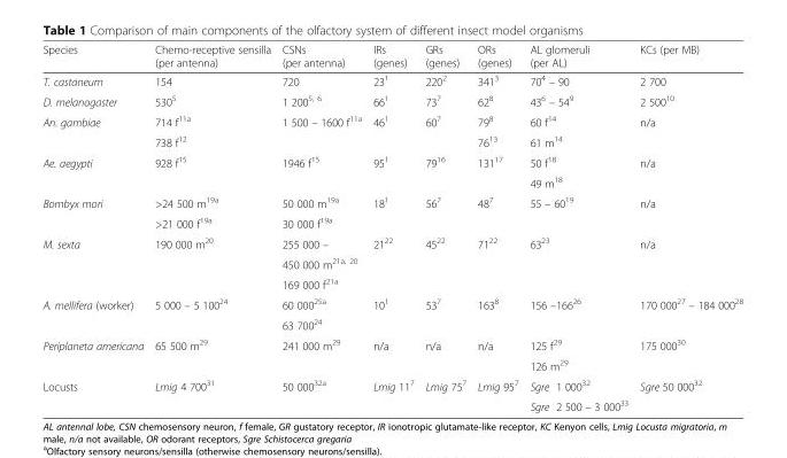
<table><thead><tr><td>Species</td><td>Chemo-receptive sensilla (per antenna)</td><td>CSNs (per antenna)</td><td>IRs (genes)</td><td>GRs (genes)</td><td>ORs (genes)</td><td>AL glomeruli (per AL)</td><td>KCs (per MB)</td></tr></thead><tbody><tr><td>T. castaneum</td><td>154</td><td>720</td><td>23<sup>1</sup></td><td>220<sup>2</sup></td><td>341<sup>3</sup></td><td>70<sup>4</sup> – 90</td><td>2 700</td></tr><tr><td>D. melanogaster</td><td>530<sup>5</sup></td><td>1 200<sup>5, 6</sup></td><td>66<sup>1</sup></td><td>73<sup>7</sup></td><td>62<sup>8</sup></td><td>43<sup>6</sup> – 54<sup>9</sup></td><td>2 500<sup>10</sup></td></tr><tr><td rowspan="2">An. gambiae</td><td>714 f<sup>11a</sup></td><td rowspan="2">1 500 – 1600 f<sup>11a</sup></td><td rowspan="2">46<sup>1</sup></td><td rowspan="2">60<sup>7</sup></td><td>79<sup>8</sup></td><td>60 f<sup>14</sup></td><td rowspan="2">n/a</td></tr><tr><td>738 f<sup>12</sup></td><td>76<sup>13</sup></td><td>61 m<sup>14</sup></td></tr><tr><td rowspan="2">Ae. aegypti</td><td rowspan="2">928 f<sup>15</sup></td><td rowspan="2">1946 f<sup>15</sup></td><td rowspan="2">95<sup>1</sup></td><td rowspan="2">79<sup>16</sup></td><td rowspan="2">131<sup>17</sup></td><td>50 f<sup>18</sup></td><td rowspan="2">n/a</td></tr><tr><td>49 m<sup>18</sup></td></tr><tr><td rowspan="2">Bombyx mori</td><td>&gt;24 500 m<sup>19a</sup></td><td>50 000 m<sup>19a</sup></td><td rowspan="2">18<sup>1</sup></td><td rowspan="2">56<sup>7</sup></td><td rowspan="2">48<sup>7</sup></td><td rowspan="2">55 – 60<sup>19</sup></td><td rowspan="2">n/a</td></tr><tr><td>&gt;21 000 f<sup>19a</sup></td><td>30 000 f<sup>19a</sup></td></tr><tr><td rowspan="3">M. sexta</td><td rowspan="3">190 000 m<sup>20</sup></td><td>255 000 –</td><td rowspan="3">21<sup>22</sup></td><td rowspan="3">45<sup>22</sup></td><td rowspan="3">71<sup>22</sup></td><td rowspan="3">63<sup>23</sup></td><td rowspan="3">n/a</td></tr><tr><td>450 000 m<sup>21a, 20</sup></td></tr><tr><td>169 000 f<sup>21a</sup></td></tr><tr><td rowspan="2">A. mellifera (worker)</td><td rowspan="2">5 000 – 5 100<sup>24</sup></td><td>60 000<sup>25a</sup></td><td rowspan="2">10<sup>1</sup></td><td rowspan="2">53<sup>7</sup></td><td rowspan="2">163<sup>8</sup></td><td rowspan="2">156 –166<sup>26</sup></td><td rowspan="2">170 000<sup>27</sup> – 184 000<sup>28</sup></td></tr><tr><td>63 700<sup>24</sup></td></tr><tr><td rowspan="2">Periplaneta americana</td><td rowspan="2">65 500 m<sup>29</sup></td><td rowspan="2">241 000 m<sup>29</sup></td><td rowspan="2">n/a</td><td rowspan="2">n/a</td><td rowspan="2">n/a</td><td>125 f<sup>29</sup></td><td rowspan="2">175 000<sup>30</sup></td></tr><tr><td>126 m<sup>29</sup></td></tr><tr><td rowspan="2">Locusts</td><td rowspan="2">Lmig 4 700<sup>31</sup></td><td rowspan="2">50 000<sup>32a</sup></td><td rowspan="2">Lmig 11<sup>7</sup></td><td rowspan="2">Lmig 75<sup>7</sup></td><td rowspan="2">Lmig 95<sup>7</sup></td><td>Sgre 1 000<sup>32</sup></td><td rowspan="2">Sgre 50 000<sup>32</sup></td></tr><tr><td>Sgre 2 500 – 3 000<sup>33</sup></td></tr></tbody></table>